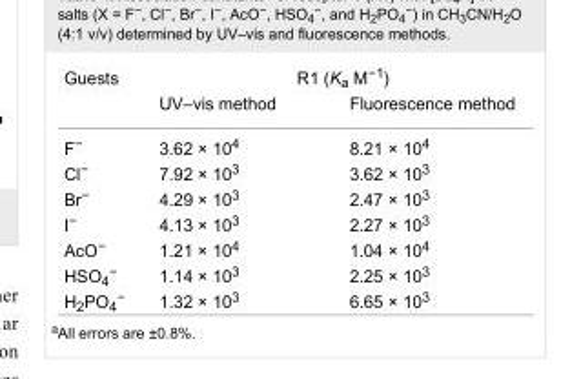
<table><tbody><tr><td rowspan="2">Guests</td><td colspan="2">R1 (K<sub>a</sub> M<sup>−1</sup>)</td></tr><tr><td>UV–vis method</td><td>Fluorescence method</td></tr><tr><td>F<sup>−</sup></td><td>3.62 × 10<sup>4</sup></td><td>8.21 × 10<sup>4</sup></td></tr><tr><td>Cl<sup>−</sup></td><td>7.92 × 10<sup>3</sup></td><td>3.62 × 10<sup>3</sup></td></tr><tr><td>Br<sup>−</sup></td><td>4.29 × 10<sup>3</sup></td><td>2.47 × 10<sup>3</sup></td></tr><tr><td>I<sup>−</sup></td><td>4.13 × 10<sup>3</sup></td><td>2.27 × 10<sup>3</sup></td></tr><tr><td>AcO<sup>−</sup></td><td>1.21 × 10<sup>4</sup></td><td>1.04 × 10<sup>4</sup></td></tr><tr><td>HSO<sub>4</sub><sup>−</sup></td><td>1.14 × 10<sup>3</sup></td><td>2.25 × 10<sup>3</sup></td></tr><tr><td>H<sub>2</sub>PO<sub>4</sub><sup>−</sup></td><td>1.32 × 10<sup>3</sup></td><td>6.65 × 10<sup>3</sup></td></tr></tbody></table>